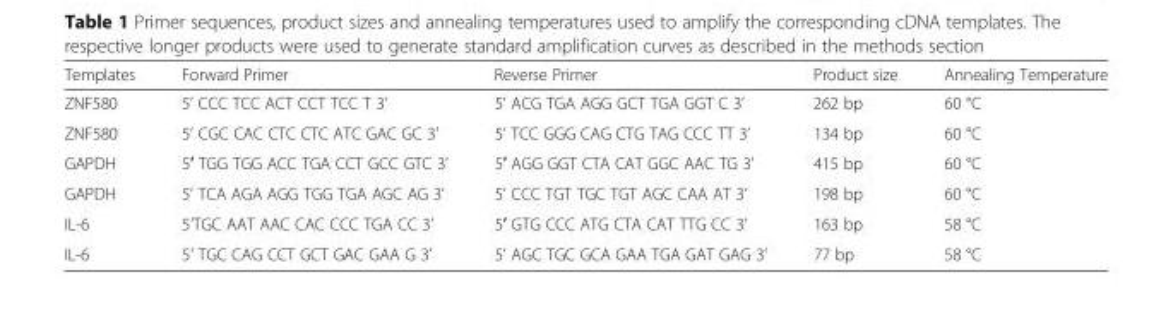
<table><thead><tr><td>Templates</td><td>Forward Primer</td><td>Reverse Primer</td><td>Product size</td><td>Annealing Temperature</td></tr></thead><tbody><tr><td>ZNF580</td><td>5’ CCC TCC ACT CCT TCC T 3’</td><td>5’ ACG TGA AGG GCT TGA GGT C 3’</td><td>262 bp</td><td>60 °C</td></tr><tr><td>ZNF580</td><td>5’ CGC CAC CTC CTC ATC GAC GC 3’</td><td>5’ TCC GGG CAG CTG TAG CCC TT 3’</td><td>134 bp</td><td>60 °C</td></tr><tr><td>GAPDH</td><td>5′ TGG TGG ACC TGA CCT GCC GTC 3’</td><td>5′ AGG GGT CTA CAT GGC AAC TG 3’</td><td>415 bp</td><td>60 °C</td></tr><tr><td>GAPDH</td><td>5’ TCA AGA AGG TGG TGA AGC AG 3’</td><td>5’ CCC TGT TGC TGT AGC CAA AT 3’</td><td>198 bp</td><td>60 °C</td></tr><tr><td>IL-6</td><td>5’TGC AAT AAC CAC CCC TGA CC 3’</td><td>5′ GTG CCC ATG CTA CAT TTG CC 3’</td><td>163 bp</td><td>58 °C</td></tr><tr><td>IL-6</td><td>5’ TGC CAG CCT GCT GAC GAA G 3’</td><td>5’ AGC TGC GCA GAA TGA GAT GAG 3’</td><td>77 bp</td><td>58 °C</td></tr></tbody></table>